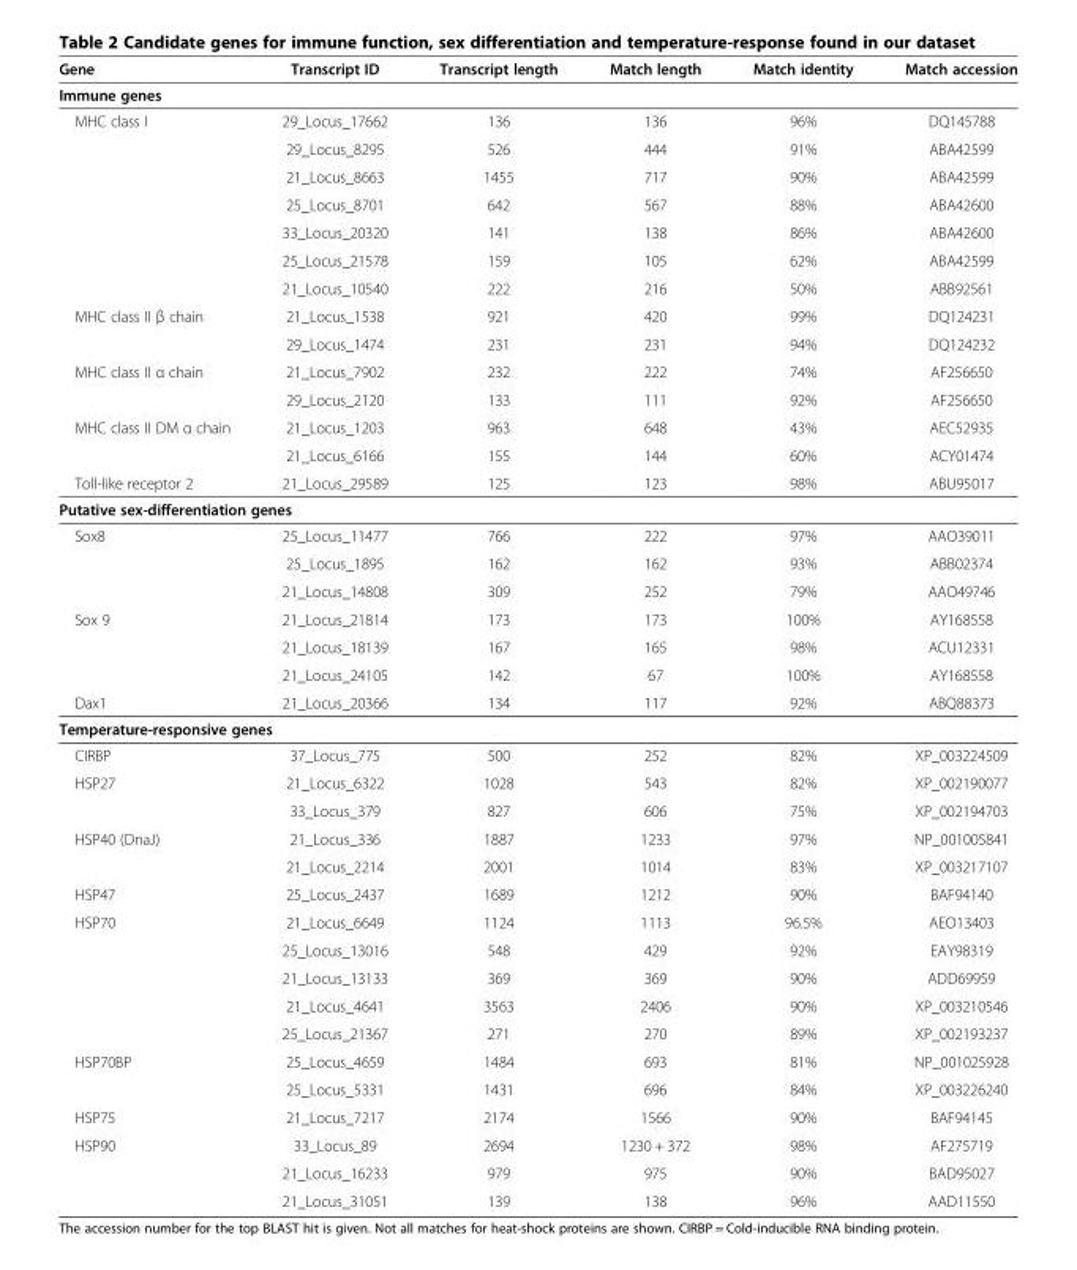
<table><thead><tr><td>Gene</td><td>Transcript ID</td><td>Transcript length</td><td>Match length</td><td>Match identity</td><td>Match accession</td></tr></thead><tbody><tr><td colspan="6">Immune genes</td></tr><tr><td rowspan="7">MHC class I</td><td>29_Locus_17662</td><td>136</td><td>136</td><td>96%</td><td>DQ145788</td></tr><tr><td>29_Locus_8295</td><td>526</td><td>444</td><td>91%</td><td>ABA42599</td></tr><tr><td>21_Locus_8663</td><td>1455</td><td>717</td><td>90%</td><td>ABA42599</td></tr><tr><td>25_Locus_8701</td><td>642</td><td>567</td><td>88%</td><td>ABA42600</td></tr><tr><td>33_Locus_20320</td><td>141</td><td>138</td><td>86%</td><td>ABA42600</td></tr><tr><td>25_Locus_21578</td><td>159</td><td>105</td><td>62%</td><td>ABA42599</td></tr><tr><td>21_Locus_10540</td><td>222</td><td>216</td><td>50%</td><td>ABB92561</td></tr><tr><td rowspan="2">MHC class II β chain</td><td>21_Locus_1538</td><td>921</td><td>420</td><td>99%</td><td>DQ124231</td></tr><tr><td>29_Locus_1474</td><td>231</td><td>231</td><td>94%</td><td>DQ124232</td></tr><tr><td rowspan="2">MHC class II α chain</td><td>21_Locus_7902</td><td>232</td><td>222</td><td>74%</td><td>AF256650</td></tr><tr><td>29_Locus_2120</td><td>133</td><td>111</td><td>92%</td><td>AF256650</td></tr><tr><td rowspan="2">MHC class II DM α chain</td><td>21_Locus_1203</td><td>963</td><td>648</td><td>43%</td><td>AEC52935</td></tr><tr><td>21_Locus_6166</td><td>155</td><td>144</td><td>60%</td><td>ACY01474</td></tr><tr><td>Toll-like receptor 2</td><td>21_Locus_29589</td><td>125</td><td>123</td><td>98%</td><td>ABU95017</td></tr><tr><td colspan="6">Putative sex-differentiation genes</td></tr><tr><td rowspan="3">Sox8</td><td>25_Locus_11477</td><td>766</td><td>222</td><td>97%</td><td>AAO39011</td></tr><tr><td>25_Locus_1895</td><td>162</td><td>162</td><td>93%</td><td>ABB02374</td></tr><tr><td>21_Locus_14808</td><td>309</td><td>252</td><td>79%</td><td>AAO49746</td></tr><tr><td rowspan="3">Sox 9</td><td>21_Locus_21814</td><td>173</td><td>173</td><td>100%</td><td>AY168558</td></tr><tr><td>21_Locus_18139</td><td>167</td><td>165</td><td>98%</td><td>ACU12331</td></tr><tr><td>21_Locus_24105</td><td>142</td><td>67</td><td>100%</td><td>AY168558</td></tr><tr><td>Dax1</td><td>21_Locus_20366</td><td>134</td><td>117</td><td>92%</td><td>ABQ88373</td></tr><tr><td colspan="6">Temperature-responsive genes</td></tr><tr><td>CIRBP</td><td>37_Locus_775</td><td>500</td><td>252</td><td>82%</td><td>XP_003224509</td></tr><tr><td rowspan="2">HSP27</td><td>21_Locus_6322</td><td>1028</td><td>543</td><td>82%</td><td>XP_002190077</td></tr><tr><td>33_Locus_379</td><td>827</td><td>606</td><td>75%</td><td>XP_002194703</td></tr><tr><td rowspan="2">HSP40 (DnaJ)</td><td>21_Locus_336</td><td>1887</td><td>1233</td><td>97%</td><td>NP_001005841</td></tr><tr><td>21_Locus_2214</td><td>2001</td><td>1014</td><td>83%</td><td>XP_003217107</td></tr><tr><td>HSP47</td><td>25_Locus_2437</td><td>1689</td><td>1212</td><td>90%</td><td>BAF94140</td></tr><tr><td rowspan="5">HSP70</td><td>21_Locus_6649</td><td>1124</td><td>1113</td><td>96.5%</td><td>AEO13403</td></tr><tr><td>25_Locus_13016</td><td>548</td><td>429</td><td>92%</td><td>EAY98319</td></tr><tr><td>21_Locus_13133</td><td>369</td><td>369</td><td>90%</td><td>ADD69959</td></tr><tr><td>21_Locus_4641</td><td>3563</td><td>2406</td><td>90%</td><td>XP_003210546</td></tr><tr><td>25_Locus_21367</td><td>271</td><td>270</td><td>89%</td><td>XP_002193237</td></tr><tr><td rowspan="2">HSP70BP</td><td>25_Locus_4659</td><td>1484</td><td>693</td><td>81%</td><td>NP_001025928</td></tr><tr><td>25_Locus_5331</td><td>1431</td><td>696</td><td>84%</td><td>XP_003226240</td></tr><tr><td>HSP75</td><td>21_Locus_7217</td><td>2174</td><td>1566</td><td>90%</td><td>BAF94145</td></tr><tr><td rowspan="3">HSP90</td><td>33_Locus_89</td><td>2694</td><td>1230 + 372</td><td>98%</td><td>AF275719</td></tr><tr><td>21_Locus_16233</td><td>979</td><td>975</td><td>90%</td><td>BAD95027</td></tr><tr><td>21_Locus_31051</td><td>139</td><td>138</td><td>96%</td><td>AAD11550</td></tr></tbody></table>